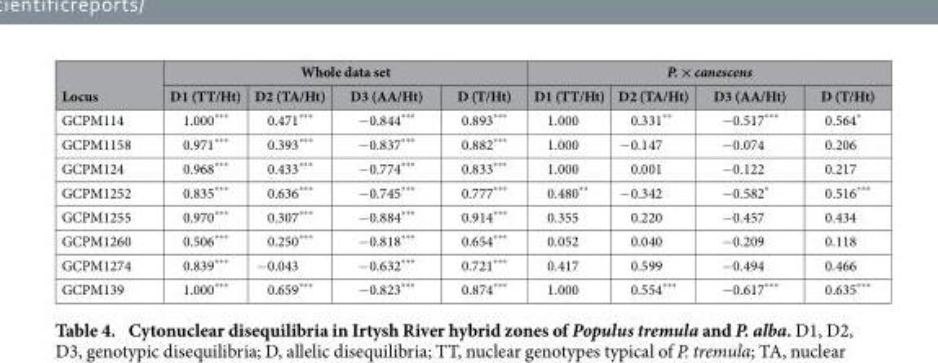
<table><thead><tr><td rowspan="2">Locus</td><td colspan="4">Whole data set</td><td colspan="4">P. × canescens</td></tr><tr><td>D1 (TT/Ht)</td><td>D2 (TA/Ht)</td><td>D3 (AA/Ht)</td><td>D (T/Ht)</td><td>D1 (TT/Ht)</td><td>D2 (TA/Ht)</td><td>D3 (AA/Ht)</td><td>D (T/Ht)</td></tr></thead><tbody><tr><td>GCPM114</td><td>1.000***</td><td>0.471***</td><td>− 0.844***</td><td>0.893***</td><td>1.000</td><td>0.331**</td><td>− 0.517***</td><td>0.564*</td></tr><tr><td>GCPM1158</td><td>0.971***</td><td>0.393***</td><td>− 0.837***</td><td>0.882***</td><td>1.000</td><td>− 0.147</td><td>− 0.074</td><td>0.206</td></tr><tr><td>GCPM124</td><td>0.968***</td><td>0.433***</td><td>− 0.774***</td><td>0.833***</td><td>1.000</td><td>0.001</td><td>− 0.122</td><td>0.217</td></tr><tr><td>GCPM1252</td><td>0.835***</td><td>0.636***</td><td>− 0.745***</td><td>0.777***</td><td>0.480**</td><td>− 0.342</td><td>− 0.582*</td><td>0.516***</td></tr><tr><td>GCPM1255</td><td>0.970***</td><td>0.307***</td><td>− 0.884***</td><td>0.914***</td><td>0.355</td><td>0.220</td><td>− 0.457</td><td>0.434</td></tr><tr><td>GCPM1260</td><td>0.506***</td><td>0.250***</td><td>− 0.818***</td><td>0.654***</td><td>0.052</td><td>0.040</td><td>− 0.209</td><td>0.118</td></tr><tr><td>GCPM1274</td><td>0.839***</td><td>− 0.043</td><td>− 0.632***</td><td>0.721***</td><td>0.417</td><td>0.599</td><td>− 0.494</td><td>0.466</td></tr><tr><td>GCPM139</td><td>1.000***</td><td>0.659***</td><td>− 0.823***</td><td>0.874***</td><td>1.000</td><td>0.554***</td><td>− 0.617***</td><td>0.635***</td></tr></tbody></table>